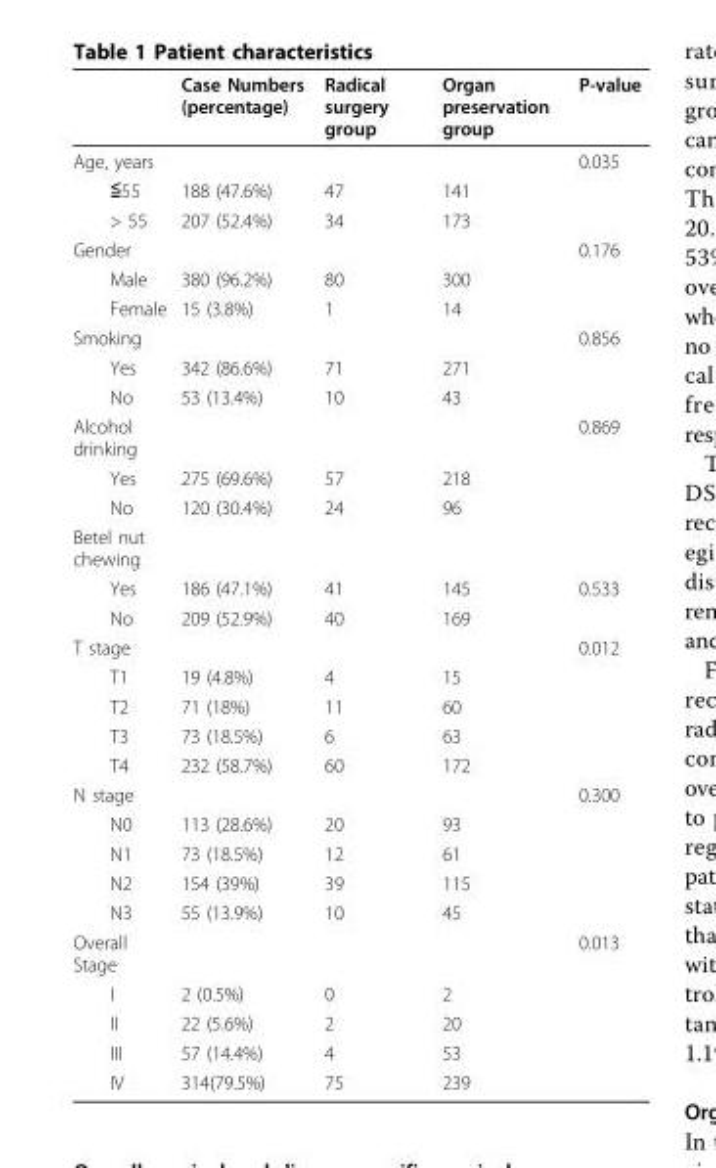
<table><thead><tr><td></td><td>Case Numbers (percentage)</td><td>Radical surgery group</td><td>Organ preservation group</td><td>P-value</td></tr></thead><tbody><tr><td>Age, years</td><td></td><td></td><td></td><td>0.035</td></tr><tr><td>≦55</td><td>188 (47.6%)</td><td>47</td><td>141</td><td></td></tr><tr><td>&gt; 55</td><td>207 (52.4%)</td><td>34</td><td>173</td><td></td></tr><tr><td>Gender</td><td></td><td></td><td></td><td>0.176</td></tr><tr><td>Male</td><td>380 (96.2%)</td><td>80</td><td>300</td><td></td></tr><tr><td>Female</td><td>15 (3.8%)</td><td>1</td><td>14</td><td></td></tr><tr><td>Smoking</td><td></td><td></td><td></td><td>0.856</td></tr><tr><td>Yes</td><td>342 (86.6%)</td><td>71</td><td>271</td><td></td></tr><tr><td>No</td><td>53 (13.4%)</td><td>10</td><td>43</td><td></td></tr><tr><td>Alcohol drinking</td><td></td><td></td><td></td><td>0.869</td></tr><tr><td>Yes</td><td>275 (69.6%)</td><td>57</td><td>218</td><td></td></tr><tr><td>No</td><td>120 (30.4%)</td><td>24</td><td>96</td><td></td></tr><tr><td colspan="5">Betel nut chewing</td></tr><tr><td>Yes</td><td>186 (47.1%)</td><td>41</td><td>145</td><td>0.533</td></tr><tr><td>No</td><td>209 (52.9%)</td><td>40</td><td>169</td><td></td></tr><tr><td>T stage</td><td></td><td></td><td></td><td>0.012</td></tr><tr><td>T1</td><td>19 (4.8%)</td><td>4</td><td>15</td><td></td></tr><tr><td>T2</td><td>71 (18%)</td><td>11</td><td>60</td><td></td></tr><tr><td>T3</td><td>73 (18.5%)</td><td>6</td><td>63</td><td></td></tr><tr><td>T4</td><td>232 (58.7%)</td><td>60</td><td>172</td><td></td></tr><tr><td>N stage</td><td></td><td></td><td></td><td>0.300</td></tr><tr><td>N0</td><td>113 (28.6%)</td><td>20</td><td>93</td><td></td></tr><tr><td>N1</td><td>73 (18.5%)</td><td>12</td><td>61</td><td></td></tr><tr><td>N2</td><td>154 (39%)</td><td>39</td><td>115</td><td></td></tr><tr><td>N3</td><td>55 (13.9%)</td><td>10</td><td>45</td><td></td></tr><tr><td>Overall Stage</td><td></td><td></td><td></td><td>0.013</td></tr><tr><td>I</td><td>2 (0.5%)</td><td>0</td><td>2</td><td></td></tr><tr><td>II</td><td>22 (5.6%)</td><td>2</td><td>20</td><td></td></tr><tr><td>III</td><td>57 (14.4%)</td><td>4</td><td>53</td><td></td></tr><tr><td>IV</td><td>314(79.5%)</td><td>75</td><td>239</td><td></td></tr></tbody></table>